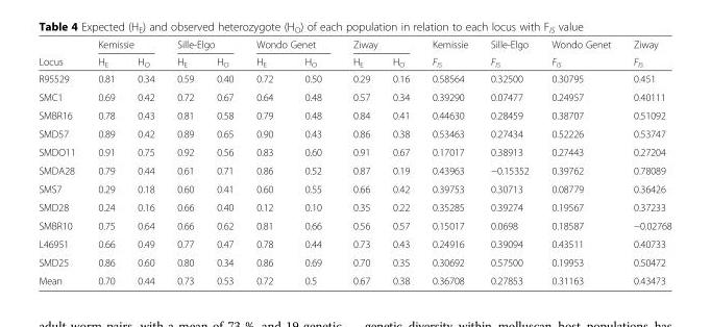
<table><thead><tr><td rowspan="2">Locus</td><td colspan="2">Kemissie</td><td colspan="2">Sille-Elgo</td><td colspan="2">Wondo Genet</td><td colspan="2">Ziway</td><td rowspan="2">Kemissie F<sub>IS</sub></td><td rowspan="2">Sille-Elgo F<sub>IS</sub></td><td rowspan="2">Wondo Genet F<sub>IS</sub></td><td rowspan="2">Ziway F<sub>IS</sub></td></tr><tr><td>H<sub>E</sub></td><td>H<sub>O</sub></td><td>H<sub>E</sub></td><td>H<sub>O</sub></td><td>H<sub>E</sub></td><td>H<sub>O</sub></td><td>H<sub>E</sub></td><td>H<sub>O</sub></td></tr></thead><tbody><tr><td>R95529</td><td>0.81</td><td>0.34</td><td>0.59</td><td>0.40</td><td>0.72</td><td>0.50</td><td>0.29</td><td>0.16</td><td>0.58564</td><td>0.32500</td><td>0.30795</td><td>0.451</td></tr><tr><td>SMC1</td><td>0.69</td><td>0.42</td><td>0.72</td><td>0.67</td><td>0.64</td><td>0.48</td><td>0.57</td><td>0.34</td><td>0.39290</td><td>0.07477</td><td>0.24957</td><td>0.40111</td></tr><tr><td>SMBR16</td><td>0.78</td><td>0.43</td><td>0.81</td><td>0.58</td><td>0.79</td><td>0.48</td><td>0.84</td><td>0.41</td><td>0.44630</td><td>0.28459</td><td>0.38707</td><td>0.51092</td></tr><tr><td>SMD57</td><td>0.89</td><td>0.42</td><td>0.89</td><td>0.65</td><td>0.90</td><td>0.43</td><td>0.86</td><td>0.38</td><td>0.53463</td><td>0.27434</td><td>0.52226</td><td>0.53747</td></tr><tr><td>SMDO11</td><td>0.91</td><td>0.75</td><td>0.92</td><td>0.56</td><td>0.83</td><td>0.60</td><td>0.91</td><td>0.67</td><td>0.17017</td><td>0.38913</td><td>0.27443</td><td>0.27204</td></tr><tr><td>SMDA28</td><td>0.79</td><td>0.44</td><td>0.61</td><td>0.71</td><td>0.86</td><td>0.52</td><td>0.87</td><td>0.19</td><td>0.43963</td><td>−0.15352</td><td>0.39762</td><td>0.78089</td></tr><tr><td>SMS7</td><td>0.29</td><td>0.18</td><td>0.60</td><td>0.41</td><td>0.60</td><td>0.55</td><td>0.66</td><td>0.42</td><td>0.39753</td><td>0.30713</td><td>0.08779</td><td>0.36426</td></tr><tr><td>SMD28</td><td>0.24</td><td>0.16</td><td>0.66</td><td>0.40</td><td>0.12</td><td>0.10</td><td>0.35</td><td>0.22</td><td>0.35285</td><td>0.39274</td><td>0.19567</td><td>0.37233</td></tr><tr><td>SMBR10</td><td>0.75</td><td>0.64</td><td>0.66</td><td>0.62</td><td>0.81</td><td>0.66</td><td>0.56</td><td>0.57</td><td>0.15017</td><td>0.0698</td><td>0.18587</td><td>−0.02768</td></tr><tr><td>L46951</td><td>0.66</td><td>0.49</td><td>0.77</td><td>0.47</td><td>0.78</td><td>0.44</td><td>0.73</td><td>0.43</td><td>0.24916</td><td>0.39094</td><td>0.43511</td><td>0.40733</td></tr><tr><td>SMD25</td><td>0.86</td><td>0.60</td><td>0.80</td><td>0.34</td><td>0.86</td><td>0.69</td><td>0.70</td><td>0.35</td><td>0.30692</td><td>0.57500</td><td>0.19953</td><td>0.50472</td></tr><tr><td>Mean</td><td>0.70</td><td>0.44</td><td>0.73</td><td>0.53</td><td>0.72</td><td>0.5</td><td>0.67</td><td>0.38</td><td>0.36708</td><td>0.27853</td><td>0.31163</td><td>0.43473</td></tr></tbody></table>